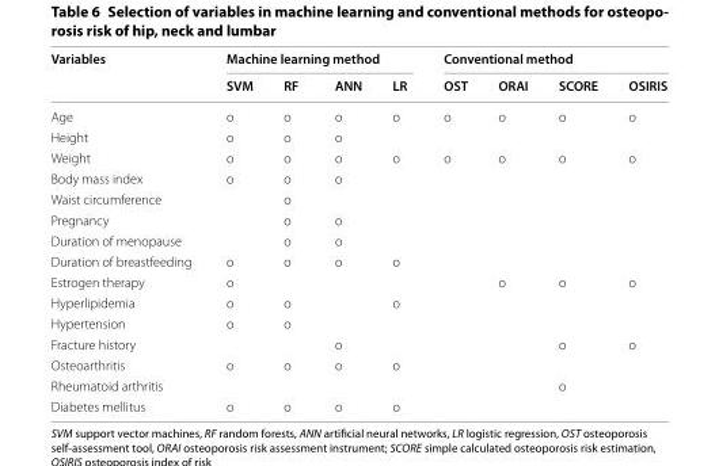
<table><thead><tr><td rowspan="2">Variables</td><td colspan="4">Machine learning method</td><td colspan="4">Conventional method</td></tr><tr><td>SVM</td><td>RF</td><td>ANN</td><td>LR</td><td>OST</td><td>ORAI</td><td>SCORE</td><td>OSIRIS</td></tr></thead><tbody><tr><td>Age</td><td>o</td><td>o</td><td>o</td><td>o</td><td>o</td><td>o</td><td>o</td><td>o</td></tr><tr><td>Height</td><td>o</td><td>o</td><td>o</td><td></td><td></td><td></td><td></td><td></td></tr><tr><td>Weight</td><td>o</td><td>o</td><td>o</td><td>o</td><td>o</td><td>o</td><td>o</td><td>o</td></tr><tr><td>Body mass index</td><td>o</td><td>o</td><td>o</td><td></td><td></td><td></td><td></td><td></td></tr><tr><td>Waist circumference</td><td></td><td>o</td><td></td><td></td><td></td><td></td><td></td><td></td></tr><tr><td>Pregnancy</td><td></td><td>o</td><td>o</td><td></td><td></td><td></td><td></td><td></td></tr><tr><td>Duration of menopause</td><td></td><td>o</td><td>o</td><td></td><td></td><td></td><td></td><td></td></tr><tr><td>Duration of breastfeeding</td><td>o</td><td>o</td><td>o</td><td>o</td><td></td><td></td><td></td><td></td></tr><tr><td>Estrogen therapy</td><td>o</td><td></td><td></td><td></td><td></td><td>o</td><td>o</td><td>o</td></tr><tr><td>Hyperlipidemia</td><td>o</td><td>o</td><td></td><td>o</td><td></td><td></td><td></td><td></td></tr><tr><td>Hypertension</td><td>o</td><td>o</td><td></td><td></td><td></td><td></td><td></td><td></td></tr><tr><td>Fracture history</td><td></td><td></td><td>o</td><td></td><td></td><td></td><td>o</td><td>o</td></tr><tr><td>Osteoarthritis</td><td>o</td><td>o</td><td>o</td><td>o</td><td></td><td></td><td></td><td></td></tr><tr><td>Rheumatoid arthritis</td><td></td><td></td><td></td><td></td><td></td><td></td><td>o</td><td></td></tr><tr><td>Diabetes mellitus</td><td>o</td><td>o</td><td>o</td><td>o</td><td></td><td></td><td></td><td></td></tr></tbody></table>